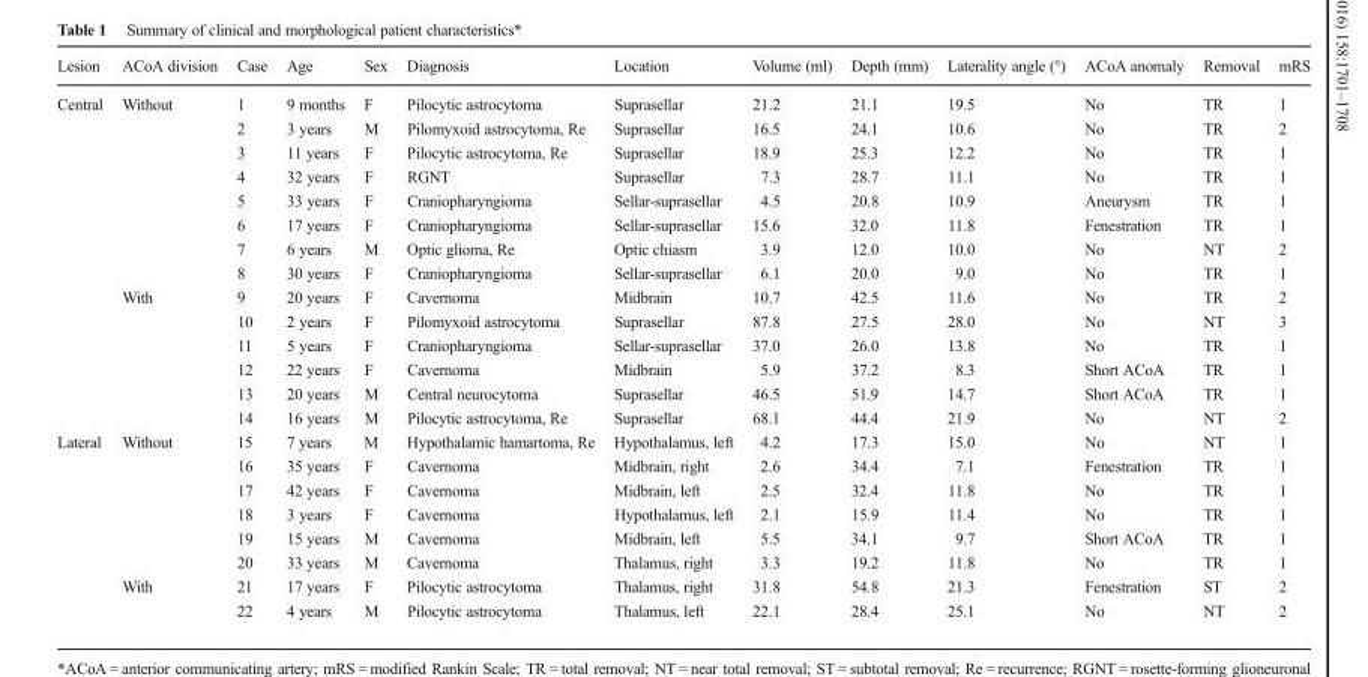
<table><thead><tr><td>Lesion</td><td>ACoA division</td><td>Case</td><td>Age</td><td>Sex</td><td>Diagnosis</td><td>Location</td><td>Volume (ml)</td><td>Depth (mm)</td><td>Laterality angle (°)</td><td>ACoA anomaly</td><td>Removal</td><td>mRS</td></tr></thead><tbody><tr><td rowspan="14">Central</td><td rowspan="8">Without</td><td>1</td><td>9 months</td><td>F</td><td>Pilocytic astrocytoma</td><td>Suprasellar</td><td>21.2</td><td>21.1</td><td>19.5</td><td>No</td><td>TR</td><td>1</td></tr><tr><td>2</td><td>3 years</td><td>M</td><td>Pilomyxoid astrocytoma, Re</td><td>Suprasellar</td><td>16.5</td><td>24.1</td><td>10.6</td><td>No</td><td>TR</td><td>2</td></tr><tr><td>3</td><td>11 years</td><td>F</td><td>Pilocytic astrocytoma, Re</td><td>Suprasellar</td><td>18.9</td><td>25.3</td><td>12.2</td><td>No</td><td>TR</td><td>1</td></tr><tr><td>4</td><td>32 years</td><td>F</td><td>RGNT</td><td>Suprasellar</td><td>7.3</td><td>28.7</td><td>11.1</td><td>No</td><td>TR</td><td>1</td></tr><tr><td>5</td><td>33 years</td><td>F</td><td>Craniopharyngioma</td><td>Sellar-suprasellar</td><td>4.5</td><td>20.8</td><td>10.9</td><td>Aneurysm</td><td>TR</td><td>1</td></tr><tr><td>6</td><td>17 years</td><td>F</td><td>Craniopharyngioma</td><td>Sellar-suprasellar</td><td>15.6</td><td>32.0</td><td>11.8</td><td>Fenestration</td><td>TR</td><td>1</td></tr><tr><td>7</td><td>6 years</td><td>M</td><td>Optic glioma, Re</td><td>Optic chiasm</td><td>3.9</td><td>12.0</td><td>10.0</td><td>No</td><td>NT</td><td>2</td></tr><tr><td>8</td><td>30 years</td><td>F</td><td>Craniopharyngioma</td><td>Sellar-suprasellar</td><td>6.1</td><td>20.0</td><td>9.0</td><td>No</td><td>TR</td><td>1</td></tr><tr><td rowspan="6">With</td><td>9</td><td>20 years</td><td>F</td><td>Cavernoma</td><td>Midbrain</td><td>10.7</td><td>42.5</td><td>11.6</td><td>No</td><td>TR</td><td>2</td></tr><tr><td>10</td><td>2 years</td><td>F</td><td>Pilomyxoid astrocytoma</td><td>Suprasellar</td><td>87.8</td><td>27.5</td><td>28.0</td><td>No</td><td>NT</td><td>3</td></tr><tr><td>11</td><td>5 years</td><td>F</td><td>Craniopharyngioma</td><td>Sellar-suprasellar</td><td>37.0</td><td>26.0</td><td>13.8</td><td>No</td><td>TR</td><td>1</td></tr><tr><td>12</td><td>22 years</td><td>F</td><td>Cavernoma</td><td>Midbrain</td><td>5.9</td><td>37.2</td><td>8.3</td><td>Short ACoA</td><td>TR</td><td>1</td></tr><tr><td>13</td><td>20 years</td><td>M</td><td>Central neurocytoma</td><td>Suprasellar</td><td>46.5</td><td>51.9</td><td>14.7</td><td>Short ACoA</td><td>TR</td><td>1</td></tr><tr><td>14</td><td>16 years</td><td>M</td><td>Pilocytic astrocytoma, Re</td><td>Suprasellar</td><td>68.1</td><td>44.4</td><td>21.9</td><td>No</td><td>NT</td><td>2</td></tr><tr><td rowspan="8">Lateral</td><td rowspan="6">Without</td><td>15</td><td>7 years</td><td>M</td><td>Hypothalamic hamartoma, Re</td><td>Hypothalamus, left</td><td>4.2</td><td>17.3</td><td>15.0</td><td>No</td><td>NT</td><td>1</td></tr><tr><td>16</td><td>35 years</td><td>F</td><td>Cavernoma</td><td>Midbrain, right</td><td>2.6</td><td>34.4</td><td>7.1</td><td>Fenestration</td><td>TR</td><td>1</td></tr><tr><td>17</td><td>42 years</td><td>F</td><td>Cavernoma</td><td>Midbrain, left</td><td>2.5</td><td>32.4</td><td>11.8</td><td>No</td><td>TR</td><td>1</td></tr><tr><td>18</td><td>3 years</td><td>F</td><td>Cavernoma</td><td>Hypothalamus, left</td><td>2.1</td><td>15.9</td><td>11.4</td><td>No</td><td>TR</td><td>1</td></tr><tr><td>19</td><td>15 years</td><td>M</td><td>Cavernoma</td><td>Midbrain, left</td><td>5.5</td><td>34.1</td><td>9.7</td><td>Short ACoA</td><td>TR</td><td>1</td></tr><tr><td>20</td><td>33 years</td><td>M</td><td>Cavernoma</td><td>Thalamus, right</td><td>3.3</td><td>19.2</td><td>11.8</td><td>No</td><td>TR</td><td>1</td></tr><tr><td rowspan="2">With</td><td>21</td><td>17 years</td><td>F</td><td>Pilocytic astrocytoma</td><td>Thalamus, right</td><td>31.8</td><td>54.8</td><td>21.3</td><td>Fenestration</td><td>ST</td><td>2</td></tr><tr><td>22</td><td>4 years</td><td>M</td><td>Pilocytic astrocytoma</td><td>Thalamus, left</td><td>22.1</td><td>28.4</td><td>25.1</td><td>No</td><td>NT</td><td>2</td></tr></tbody></table>